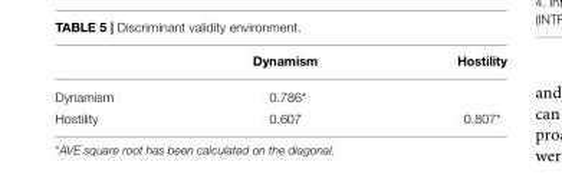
<table><thead><tr><td></td><td>Dynamism</td><td>Hostility</td></tr></thead><tbody><tr><td>Dynamism</td><td>0.786*</td><td></td></tr><tr><td>Hostility</td><td>0.607</td><td>0.807*</td></tr></tbody></table>